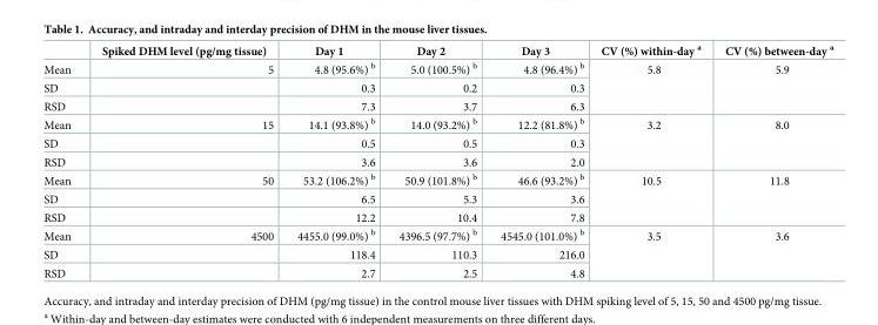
<table><thead><tr><td></td><td>Spiked DHM level (pg/mg tissue)</td><td>Day 1</td><td>Day 2</td><td>Day 3</td><td>CV (%) within-day <sup>a</sup></td><td>CV (%) between-day <sup>a</sup></td></tr></thead><tbody><tr><td>Mean</td><td>5</td><td>4.8 (95.6%) <sup>b</sup></td><td>5.0 (100.5%) <sup>b</sup></td><td>4.8 (96.4%) <sup>b</sup></td><td rowspan="3">5.8</td><td rowspan="3">5.9</td></tr><tr><td>SD</td><td></td><td>0.3</td><td>0.2</td><td>0.3</td></tr><tr><td>RSD</td><td></td><td>7.3</td><td>3.7</td><td>6.3</td></tr><tr><td>Mean</td><td>15</td><td>14.1 (93.8%) <sup>b</sup></td><td>14.0 (93.2%) <sup>b</sup></td><td>12.2 (81.8%) <sup>b</sup></td><td rowspan="3">3.2</td><td rowspan="3">8.0</td></tr><tr><td>SD</td><td></td><td>0.5</td><td>0.5</td><td>0.3</td></tr><tr><td>RSD</td><td></td><td>3.6</td><td>3.6</td><td>2.0</td></tr><tr><td>Mean</td><td>50</td><td>53.2 (106.2%) <sup>b</sup></td><td>50.9 (101.8%) <sup>b</sup></td><td>46.6 (93.2%) <sup>b</sup></td><td rowspan="3">10.5</td><td rowspan="3">11.8</td></tr><tr><td>SD</td><td></td><td>6.5</td><td>5.3</td><td>3.6</td></tr><tr><td>RSD</td><td></td><td>12.2</td><td>10.4</td><td>7.8</td></tr><tr><td>Mean</td><td>4500</td><td>4455.0 (99.0%) <sup>b</sup></td><td>4396.5 (97.7%) <sup>b</sup></td><td>4545.0 (101.0%) <sup>b</sup></td><td rowspan="3">3.5</td><td rowspan="3">3.6</td></tr><tr><td>SD</td><td></td><td>118.4</td><td>110.3</td><td>216.0</td></tr><tr><td>RSD</td><td></td><td>2.7</td><td>2.5</td><td>4.8</td></tr></tbody></table>